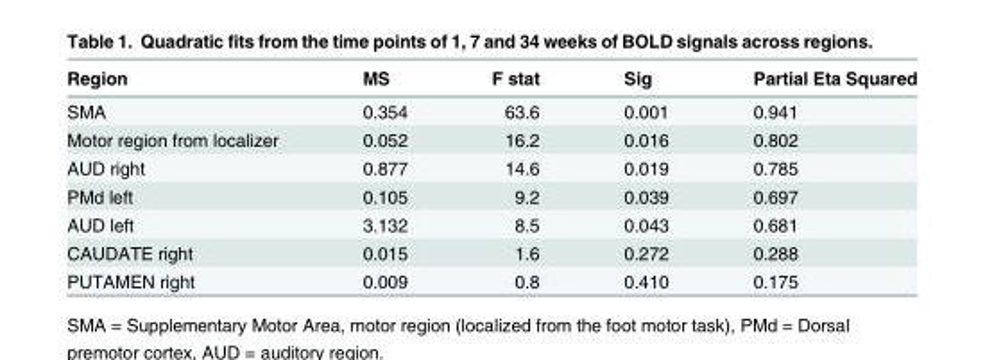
<table><thead><tr><td>Region</td><td>MS</td><td>F stat</td><td>Sig</td><td>Partial Eta Squared</td></tr></thead><tbody><tr><td>SMA</td><td>0.354</td><td>63.6</td><td>0.001</td><td>0.941</td></tr><tr><td>Motor region from localizer</td><td>0.052</td><td>16.2</td><td>0.016</td><td>0.802</td></tr><tr><td>AUD right</td><td>0.877</td><td>14.6</td><td>0.019</td><td>0.785</td></tr><tr><td>PMd left</td><td>0.105</td><td>9.2</td><td>0.039</td><td>0.697</td></tr><tr><td>AUD left</td><td>3.132</td><td>8.5</td><td>0.043</td><td>0.681</td></tr><tr><td>CAUDATE right</td><td>0.015</td><td>1.6</td><td>0.272</td><td>0.288</td></tr><tr><td>PUTAMEN right</td><td>0.009</td><td>0.8</td><td>0.410</td><td>0.175</td></tr></tbody></table>